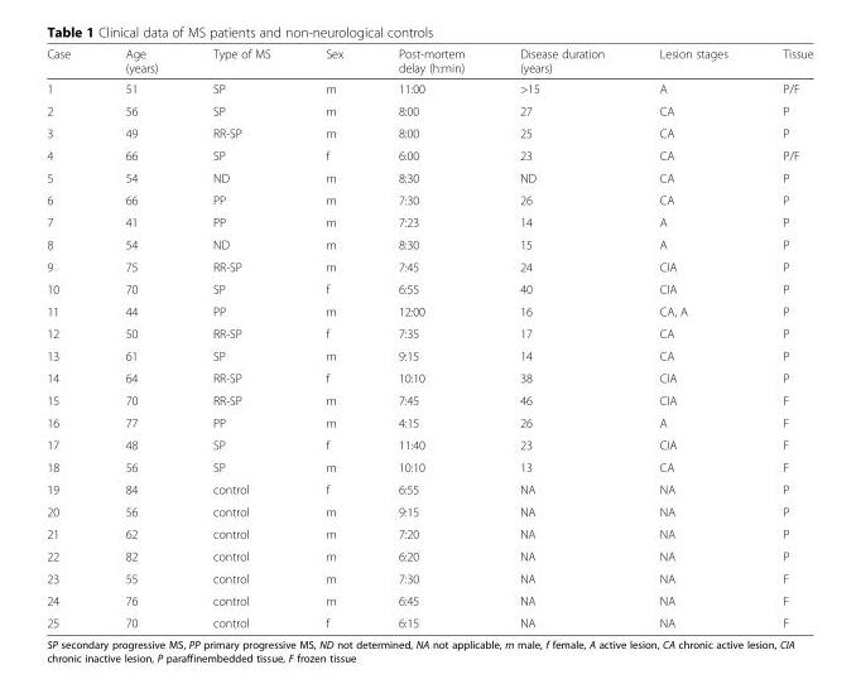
<table><thead><tr><td>Case</td><td>Age (years)</td><td>Type of MS</td><td>Sex</td><td>Post-mortem delay (h:min)</td><td>Disease duration (years)</td><td>Lesion stages</td><td>Tissue</td></tr></thead><tbody><tr><td>1</td><td>51</td><td>SP</td><td>m</td><td>11:00</td><td>&gt;15</td><td>A</td><td>P/F</td></tr><tr><td>2</td><td>56</td><td>SP</td><td>m</td><td>8:00</td><td>27</td><td>CA</td><td>P</td></tr><tr><td>3</td><td>49</td><td>RR-SP</td><td>m</td><td>8:00</td><td>25</td><td>CA</td><td>P</td></tr><tr><td>4</td><td>66</td><td>SP</td><td>f</td><td>6:00</td><td>23</td><td>CA</td><td>P/F</td></tr><tr><td>5</td><td>54</td><td>ND</td><td>m</td><td>8:30</td><td>ND</td><td>CA</td><td>P</td></tr><tr><td>6</td><td>66</td><td>PP</td><td>m</td><td>7:30</td><td>26</td><td>CA</td><td>P</td></tr><tr><td>7</td><td>41</td><td>PP</td><td>m</td><td>7:23</td><td>14</td><td>A</td><td>P</td></tr><tr><td>8</td><td>54</td><td>ND</td><td>m</td><td>8:30</td><td>15</td><td>A</td><td>P</td></tr><tr><td>9</td><td>75</td><td>RR-SP</td><td>m</td><td>7:45</td><td>24</td><td>CIA</td><td>P</td></tr><tr><td>10</td><td>70</td><td>SP</td><td>f</td><td>6:55</td><td>40</td><td>CIA</td><td>P</td></tr><tr><td>11</td><td>44</td><td>PP</td><td>m</td><td>12:00</td><td>16</td><td>CA, A</td><td>P</td></tr><tr><td>12</td><td>50</td><td>RR-SP</td><td>f</td><td>7:35</td><td>17</td><td>CA</td><td>P</td></tr><tr><td>13</td><td>61</td><td>SP</td><td>m</td><td>9:15</td><td>14</td><td>CA</td><td>P</td></tr><tr><td>14</td><td>64</td><td>RR-SP</td><td>f</td><td>10:10</td><td>38</td><td>CIA</td><td>P</td></tr><tr><td>15</td><td>70</td><td>RR-SP</td><td>m</td><td>7:45</td><td>46</td><td>CIA</td><td>F</td></tr><tr><td>16</td><td>77</td><td>PP</td><td>m</td><td>4:15</td><td>26</td><td>A</td><td>F</td></tr><tr><td>17</td><td>48</td><td>SP</td><td>f</td><td>11:40</td><td>23</td><td>CIA</td><td>F</td></tr><tr><td>18</td><td>56</td><td>SP</td><td>m</td><td>10:10</td><td>13</td><td>CA</td><td>F</td></tr><tr><td>19</td><td>84</td><td>control</td><td>f</td><td>6:55</td><td>NA</td><td>NA</td><td>P</td></tr><tr><td>20</td><td>56</td><td>control</td><td>m</td><td>9:15</td><td>NA</td><td>NA</td><td>P</td></tr><tr><td>21</td><td>62</td><td>control</td><td>m</td><td>7:20</td><td>NA</td><td>NA</td><td>P</td></tr><tr><td>22</td><td>82</td><td>control</td><td>m</td><td>6:20</td><td>NA</td><td>NA</td><td>P</td></tr><tr><td>23</td><td>55</td><td>control</td><td>m</td><td>7:30</td><td>NA</td><td>NA</td><td>F</td></tr><tr><td>24</td><td>76</td><td>control</td><td>m</td><td>6:45</td><td>NA</td><td>NA</td><td>F</td></tr><tr><td>25</td><td>70</td><td>control</td><td>f</td><td>6:15</td><td>NA</td><td>NA</td><td>F</td></tr></tbody></table>